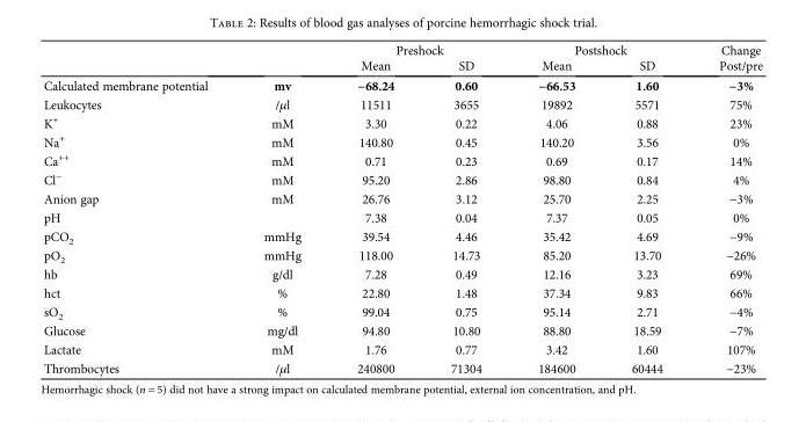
<table><thead><tr><td rowspan="2"></td><td rowspan="2"></td><td colspan="2">Preshock</td><td colspan="2">Postshock</td><td rowspan="2">Change Post/pre</td></tr><tr><td>Mean</td><td>SD</td><td>Mean</td><td>SD</td></tr></thead><tbody><tr><td>Calculated membrane potential</td><td>mv</td><td>−68.24</td><td>0.60</td><td>−66.53</td><td>1.60</td><td>−3%</td></tr><tr><td>Leukocytes</td><td>/μl</td><td>11511</td><td>3655</td><td>19892</td><td>5571</td><td>75%</td></tr><tr><td>K<sup>+</sup></td><td>mM</td><td>3.30</td><td>0.22</td><td>4.06</td><td>0.88</td><td>23%</td></tr><tr><td>Na<sup>+</sup></td><td>mM</td><td>140.80</td><td>0.45</td><td>140.20</td><td>3.56</td><td>0%</td></tr><tr><td>Ca<sup>++</sup></td><td>mM</td><td>0.71</td><td>0.23</td><td>0.69</td><td>0.17</td><td>14%</td></tr><tr><td>Cl<sup>−</sup></td><td>mM</td><td>95.20</td><td>2.86</td><td>98.80</td><td>0.84</td><td>4%</td></tr><tr><td>Anion gap</td><td>mM</td><td>26.76</td><td>3.12</td><td>25.70</td><td>2.25</td><td>−3%</td></tr><tr><td>pH</td><td></td><td>7.38</td><td>0.04</td><td>7.37</td><td>0.05</td><td>0%</td></tr><tr><td>pCO<sub>2</sub></td><td>mmHg</td><td>39.54</td><td>4.46</td><td>35.42</td><td>4.69</td><td>−9%</td></tr><tr><td>pO<sub>2</sub></td><td>mmHg</td><td>118.00</td><td>14.73</td><td>85.20</td><td>13.70</td><td>−26%</td></tr><tr><td>hb</td><td>g/dl</td><td>7.28</td><td>0.49</td><td>12.16</td><td>3.23</td><td>69%</td></tr><tr><td>hct</td><td>%</td><td>22.80</td><td>1.48</td><td>37.34</td><td>9.83</td><td>66%</td></tr><tr><td>sO<sub>2</sub></td><td>%</td><td>99.04</td><td>0.75</td><td>95.14</td><td>2.71</td><td>−4%</td></tr><tr><td>Glucose</td><td>mg/dl</td><td>94.80</td><td>10.80</td><td>88.80</td><td>18.59</td><td>−7%</td></tr><tr><td>Lactate</td><td>mM</td><td>1.76</td><td>0.77</td><td>3.42</td><td>1.60</td><td>107%</td></tr><tr><td>Thrombocytes</td><td>/μl</td><td>240800</td><td>71304</td><td>184600</td><td>60444</td><td>−23%</td></tr></tbody></table>